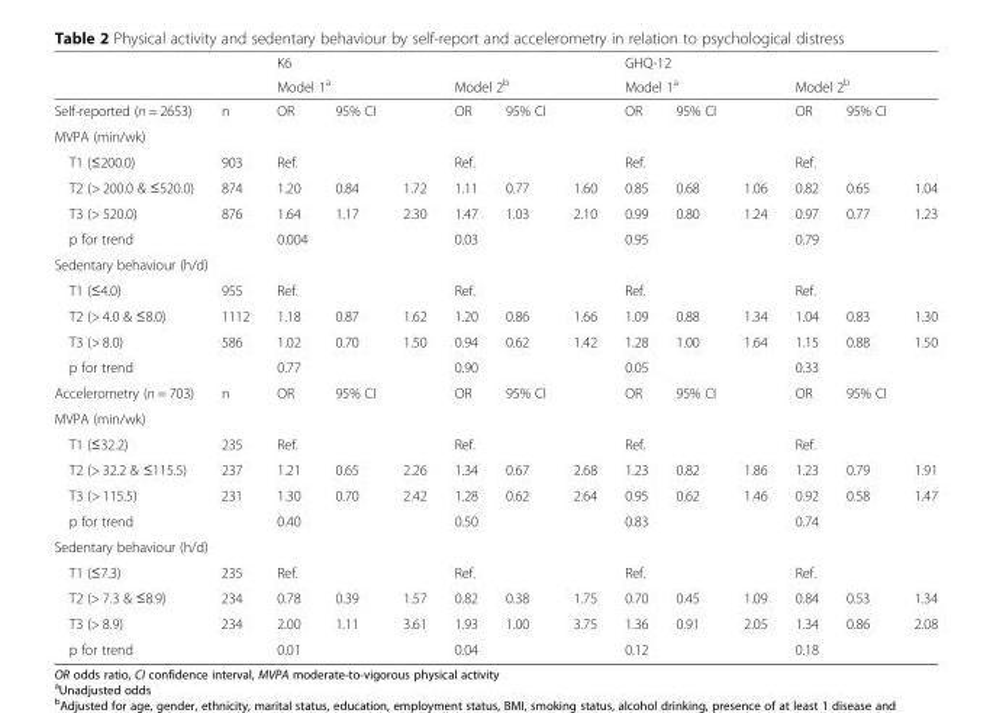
<table><thead><tr><td rowspan="3">Self-reported (n = 2653)</td><td rowspan="3">n</td><td rowspan="2" colspan="3">K6 Model 1<sup>a</sup></td><td></td><td></td><td></td><td rowspan="2" colspan="3">GHQ-12 Model 1<sup>a</sup></td><td></td><td></td><td></td></tr><tr><td colspan="3">Model 2<sup>b</sup></td><td colspan="3">Model 2<sup>b</sup></td></tr><tr><td>OR</td><td colspan="2">95% CI</td><td>OR</td><td>95% CI</td><td></td><td>OR</td><td>95% CI</td><td></td><td>OR</td><td>95% CI</td><td></td></tr><tr><td colspan="14">MVPA (min/wk)</td></tr><tr><td>T1 (≤200.0)</td><td>903</td><td>Ref.</td><td></td><td></td><td>Ref.</td><td></td><td></td><td>Ref.</td><td></td><td></td><td>Ref.</td><td></td><td></td></tr></thead><tbody><tr><td>T2 (&gt; 200.0 &amp; ≤520.0)</td><td>874</td><td>1.20</td><td>0.84</td><td>1.72</td><td>1.11</td><td>0.77</td><td>1.60</td><td>0.85</td><td>0.68</td><td>1.06</td><td>0.82</td><td>0.65</td><td>1.04</td></tr><tr><td>T3 (&gt; 520.0)</td><td>876</td><td>1.64</td><td>1.17</td><td>2.30</td><td>1.47</td><td>1.03</td><td>2.10</td><td>0.99</td><td>0.80</td><td>1.24</td><td>0.97</td><td>0.77</td><td>1.23</td></tr><tr><td>p for trend</td><td></td><td>0.004</td><td></td><td></td><td>0.03</td><td></td><td></td><td>0.95</td><td></td><td></td><td>0.79</td><td></td><td></td></tr><tr><td colspan="14">Sedentary behaviour (h/d)</td></tr><tr><td>T1 (≤4.0)</td><td>955</td><td>Ref.</td><td></td><td></td><td>Ref.</td><td></td><td></td><td>Ref.</td><td></td><td></td><td>Ref.</td><td></td><td></td></tr><tr><td>T2 (&gt; 4.0 &amp; ≤8.0)</td><td>1112</td><td>1.18</td><td>0.87</td><td>1.62</td><td>1.20</td><td>0.86</td><td>1.66</td><td>1.09</td><td>0.88</td><td>1.34</td><td>1.04</td><td>0.83</td><td>1.30</td></tr><tr><td>T3 (&gt; 8.0)</td><td>586</td><td>1.02</td><td>0.70</td><td>1.50</td><td>0.94</td><td>0.62</td><td>1.42</td><td>1.28</td><td>1.00</td><td>1.64</td><td>1.15</td><td>0.88</td><td>1.50</td></tr><tr><td>p for trend</td><td></td><td>0.77</td><td></td><td></td><td>0.90</td><td></td><td></td><td>0.05</td><td></td><td></td><td>0.33</td><td></td><td></td></tr><tr><td>Accelerometry (n = 703)</td><td>n</td><td>OR</td><td>95% CI</td><td></td><td>OR</td><td>95% CI</td><td></td><td>OR</td><td>95% CI</td><td></td><td>OR</td><td>95% CI</td><td></td></tr><tr><td colspan="14">MVPA (min/wk)</td></tr><tr><td>T1 (≤32.2)</td><td>235</td><td>Ref.</td><td></td><td></td><td>Ref.</td><td></td><td></td><td>Ref.</td><td></td><td></td><td>Ref.</td><td></td><td></td></tr><tr><td>T2 (&gt; 32.2 &amp; ≤115.5)</td><td>237</td><td>1.21</td><td>0.65</td><td>2.26</td><td>1.34</td><td>0.67</td><td>2.68</td><td>1.23</td><td>0.82</td><td>1.86</td><td>1.23</td><td>0.79</td><td>1.91</td></tr><tr><td>T3 (&gt; 115.5)</td><td>231</td><td>1.30</td><td>0.70</td><td>2.42</td><td>1.28</td><td>0.62</td><td>2.64</td><td>0.95</td><td>0.62</td><td>1.46</td><td>0.92</td><td>0.58</td><td>1.47</td></tr><tr><td>p for trend</td><td></td><td>0.40</td><td></td><td></td><td>0.50</td><td></td><td></td><td>0.83</td><td></td><td></td><td>0.74</td><td></td><td></td></tr><tr><td colspan="14">Sedentary behaviour (h/d)</td></tr><tr><td>T1 (≤7.3)</td><td>235</td><td>Ref.</td><td></td><td></td><td>Ref.</td><td></td><td></td><td>Ref.</td><td></td><td></td><td>Ref.</td><td></td><td></td></tr><tr><td>T2 (&gt; 7.3 &amp; ≤8.9)</td><td>234</td><td>0.78</td><td>0.39</td><td>1.57</td><td>0.82</td><td>0.38</td><td>1.75</td><td>0.70</td><td>0.45</td><td>1.09</td><td>0.84</td><td>0.53</td><td>1.34</td></tr><tr><td>T3 (&gt; 8.9)</td><td>234</td><td>2.00</td><td>1.11</td><td>3.61</td><td>1.93</td><td>1.00</td><td>3.75</td><td>1.36</td><td>0.91</td><td>2.05</td><td>1.34</td><td>0.86</td><td>2.08</td></tr><tr><td>p for trend</td><td></td><td>0.01</td><td></td><td></td><td>0.04</td><td></td><td></td><td>0.12</td><td></td><td></td><td>0.18</td><td></td><td></td></tr></tbody></table>